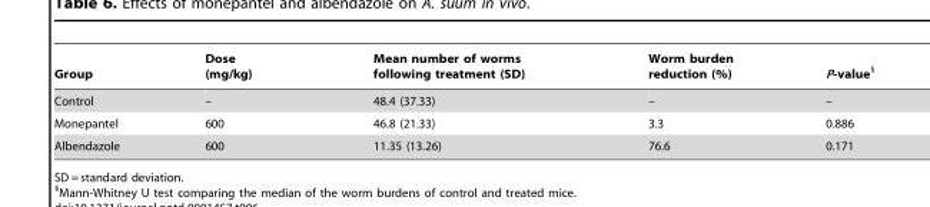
<table><thead><tr><td>Group</td><td>Dose (mg/kg)</td><td>Mean number of worms following treatment (SD)</td><td>Worm burden reduction (%)</td><td>P-value§</td></tr></thead><tbody><tr><td>Control</td><td>–</td><td>48.4 (37.33)</td><td>–</td><td>–</td></tr><tr><td>Monepantel</td><td>600</td><td>46.8 (21.33)</td><td>3.3</td><td>0.886</td></tr><tr><td>Albendazole</td><td>600</td><td>11.35 (13.26)</td><td>76.6</td><td>0.171</td></tr></tbody></table>